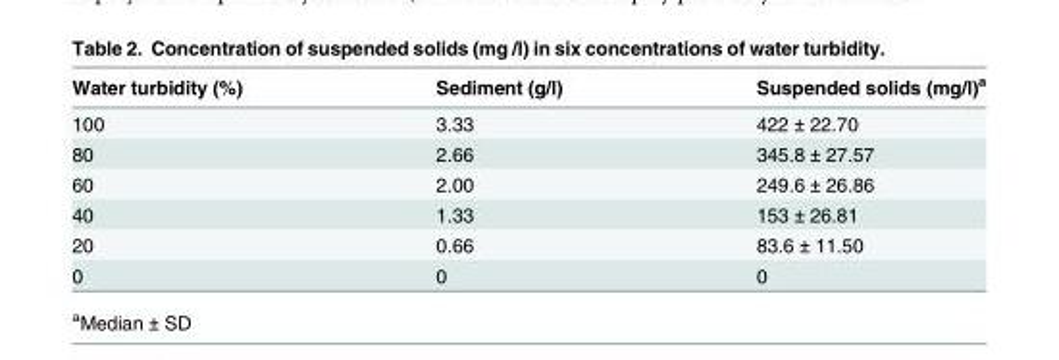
<table><thead><tr><td>Water turbidity (%)</td><td>Sediment (g/l)</td><td>Suspended solids (mg/l)<sup>a</sup></td></tr></thead><tbody><tr><td>100</td><td>3.33</td><td>422 ± 22.70</td></tr><tr><td>80</td><td>2.66</td><td>345.8 ± 27.57</td></tr><tr><td>60</td><td>2.00</td><td>249.6 ± 26.86</td></tr><tr><td>40</td><td>1.33</td><td>153 ± 26.81</td></tr><tr><td>20</td><td>0.66</td><td>83.6 ± 11.50</td></tr><tr><td>0</td><td>0</td><td>0</td></tr></tbody></table>